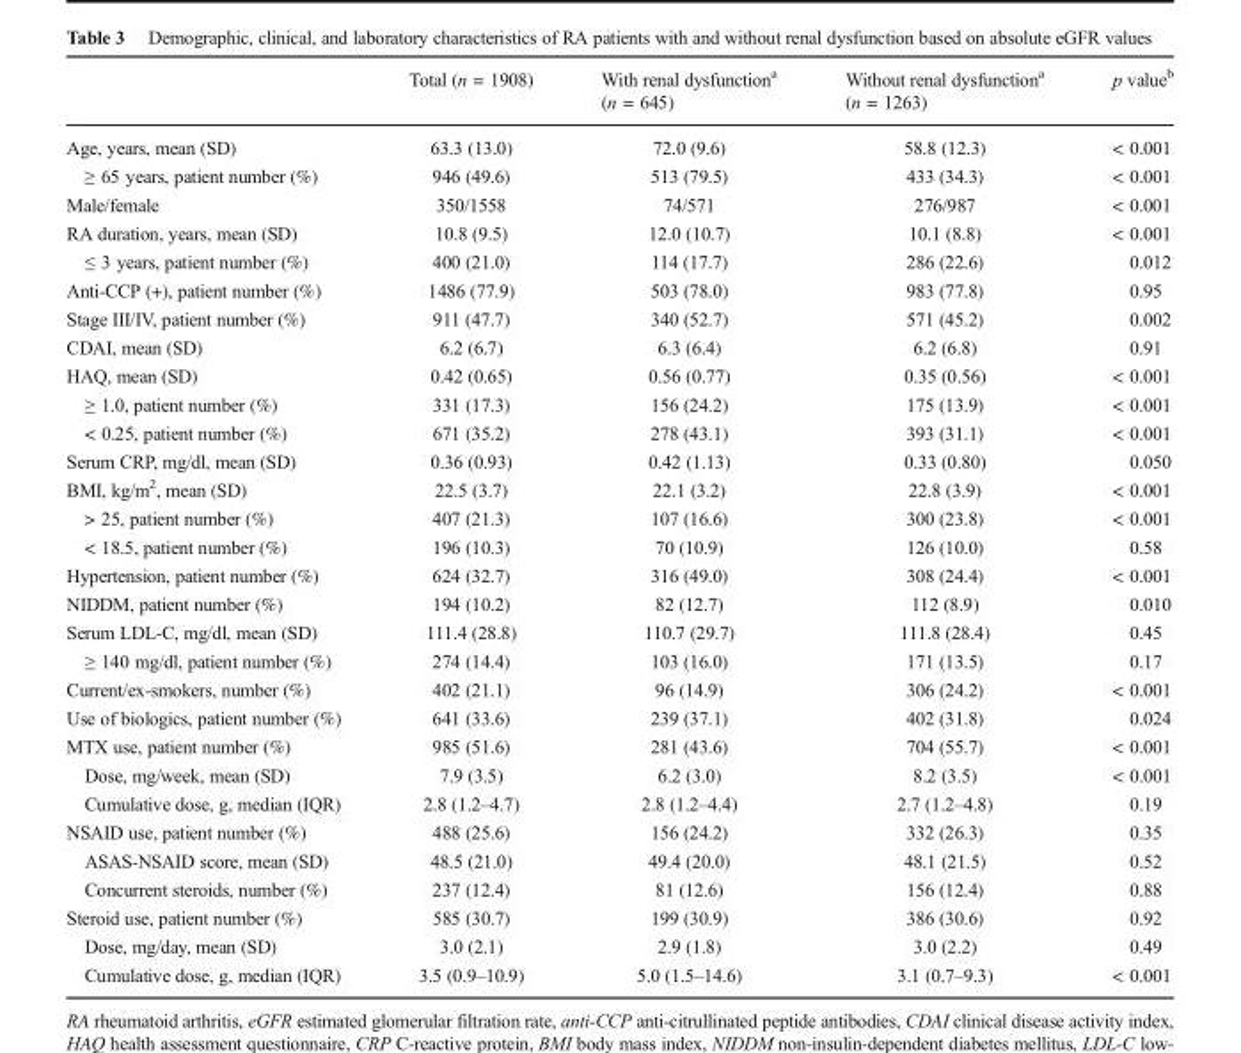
<table><thead><tr><td></td><td>Total (n = 1908)</td><td>With renal dysfunction<sup>a</sup> (n = 645)</td><td>Without renal dysfunction<sup>a</sup> (n = 1263)</td><td>p value<sup>b</sup></td></tr></thead><tbody><tr><td>Age, years, mean (SD)</td><td>63.3 (13.0)</td><td>72.0 (9.6)</td><td>58.8 (12.3)</td><td>&lt; 0.001</td></tr><tr><td>≥ 65 years, patient number (%)</td><td>946 (49.6)</td><td>513 (79.5)</td><td>433 (34.3)</td><td>&lt; 0.001</td></tr><tr><td>Male/female</td><td>350/1558</td><td>74/571</td><td>276/987</td><td>&lt; 0.001</td></tr><tr><td>RA duration, years, mean (SD)</td><td>10.8 (9.5)</td><td>12.0 (10.7)</td><td>10.1 (8.8)</td><td>&lt; 0.001</td></tr><tr><td>≤ 3 years, patient number (%)</td><td>400 (21.0)</td><td>114 (17.7)</td><td>286 (22.6)</td><td>0.012</td></tr><tr><td>Anti-CCP (+), patient number (%)</td><td>1486 (77.9)</td><td>503 (78.0)</td><td>983 (77.8)</td><td>0.95</td></tr><tr><td>Stage III/IV, patient number (%)</td><td>911 (47.7)</td><td>340 (52.7)</td><td>571 (45.2)</td><td>0.002</td></tr><tr><td>CDAI, mean (SD)</td><td>6.2 (6.7)</td><td>6.3 (6.4)</td><td>6.2 (6.8)</td><td>0.91</td></tr><tr><td>HAQ, mean (SD)</td><td>0.42 (0.65)</td><td>0.56 (0.77)</td><td>0.35 (0.56)</td><td>&lt; 0.001</td></tr><tr><td>≥ 1.0, patient number (%)</td><td>331 (17.3)</td><td>156 (24.2)</td><td>175 (13.9)</td><td>&lt; 0.001</td></tr><tr><td>&lt; 0.25, patient number (%)</td><td>671 (35.2)</td><td>278 (43.1)</td><td>393 (31.1)</td><td>&lt; 0.001</td></tr><tr><td>Serum CRP, mg/dl, mean (SD)</td><td>0.36 (0.93)</td><td>0.42 (1.13)</td><td>0.33 (0.80)</td><td>0.050</td></tr><tr><td>BMI, kg/m<sup>2</sup>, mean (SD)</td><td>22.5 (3.7)</td><td>22.1 (3.2)</td><td>22.8 (3.9)</td><td>&lt; 0.001</td></tr><tr><td>&gt; 25, patient number (%)</td><td>407 (21.3)</td><td>107 (16.6)</td><td>300 (23.8)</td><td>&lt; 0.001</td></tr><tr><td>&lt; 18.5, patient number (%)</td><td>196 (10.3)</td><td>70 (10.9)</td><td>126 (10.0)</td><td>0.58</td></tr><tr><td>Hypertension, patient number (%)</td><td>624 (32.7)</td><td>316 (49.0)</td><td>308 (24.4)</td><td>&lt; 0.001</td></tr><tr><td>NIDDM, patient number (%)</td><td>194 (10.2)</td><td>82 (12.7)</td><td>112 (8.9)</td><td>0.010</td></tr><tr><td>Serum LDL-C, mg/dl, mean (SD)</td><td>111.4 (28.8)</td><td>110.7 (29.7)</td><td>111.8 (28.4)</td><td>0.45</td></tr><tr><td>≥ 140 mg/dl, patient number (%)</td><td>274 (14.4)</td><td>103 (16.0)</td><td>171 (13.5)</td><td>0.17</td></tr><tr><td>Current/ex-smokers, number (%)</td><td>402 (21.1)</td><td>96 (14.9)</td><td>306 (24.2)</td><td>&lt; 0.001</td></tr><tr><td>Use of biologics, patient number (%)</td><td>641 (33.6)</td><td>239 (37.1)</td><td>402 (31.8)</td><td>0.024</td></tr><tr><td>MTX use, patient number (%)</td><td>985 (51.6)</td><td>281 (43.6)</td><td>704 (55.7)</td><td>&lt; 0.001</td></tr><tr><td>Dose, mg/week, mean (SD)</td><td>7.9 (3.5)</td><td>6.2 (3.0)</td><td>8.2 (3.5)</td><td>&lt; 0.001</td></tr><tr><td>Cumulative dose, g, median (IQR)</td><td>2.8 (1.2–4.7)</td><td>2.8 (1.2–4.4)</td><td>2.7 (1.2–4.8)</td><td>0.19</td></tr><tr><td>NSAID use, patient number (%)</td><td>488 (25.6)</td><td>156 (24.2)</td><td>332 (26.3)</td><td>0.35</td></tr><tr><td>ASAS-NSAID score, mean (SD)</td><td>48.5 (21.0)</td><td>49.4 (20.0)</td><td>48.1 (21.5)</td><td>0.52</td></tr><tr><td>Concurrent steroids, number (%)</td><td>237 (12.4)</td><td>81 (12.6)</td><td>156 (12.4)</td><td>0.88</td></tr><tr><td>Steroid use, patient number (%)</td><td>585 (30.7)</td><td>199 (30.9)</td><td>386 (30.6)</td><td>0.92</td></tr><tr><td>Dose, mg/day, mean (SD)</td><td>3.0 (2.1)</td><td>2.9 (1.8)</td><td>3.0 (2.2)</td><td>0.49</td></tr><tr><td>Cumulative dose, g, median (IQR)</td><td>3.5 (0.9–10.9)</td><td>5.0 (1.5–14.6)</td><td>3.1 (0.7–9.3)</td><td>&lt; 0.001</td></tr></tbody></table>